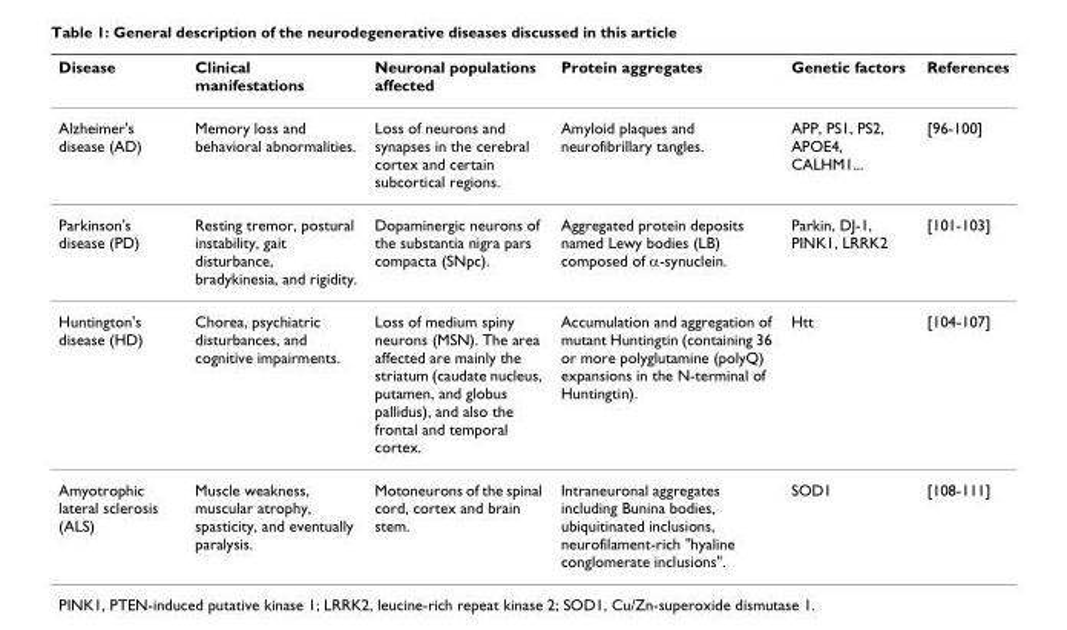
<table><thead><tr><td>Disease</td><td>Clinical manifestations</td><td>Neuronal populations affected</td><td>Protein aggregates</td><td>Genetic factors</td><td>References</td></tr></thead><tbody><tr><td>Alzheimer&#x27;s disease (AD)</td><td>Memory loss and behavioral abnormalities.</td><td>Loss of neurons and synapses in the cerebral cortex and certain subcortical regions.</td><td>Amyloid plaques and neurofibrillary tangles.</td><td>APP, PS1, PS2, APOE4, CALHM1...</td><td>[96-100]</td></tr><tr><td>Parkinson&#x27;s disease (PD)</td><td>Resting tremor, postural instability, gait disturbance, bradykinesia, and rigidity.</td><td>Dopaminergic neurons of the substantia nigra pars compacta (SNpc).</td><td>Aggregated protein deposits named Lewy bodies (LB) composed of α-synuclein.</td><td>Parkin, DJ-1, PINK1, LRRK2</td><td>[101-103]</td></tr><tr><td>Huntington&#x27;s disease (HD)</td><td>Chorea, psychiatric disturbances, and cognitive impairments.</td><td>Loss of medium spiny neurons (MSN). The area affected are mainly the striatum (caudate nucleus, putamen, and globus pallidus), and also the frontal and temporal cortex.</td><td>Accumulation and aggregation of mutant Huntingtin (containing 36 or more polyglutamine (polyQ) expansions in the N-terminal of Huntingtin).</td><td>Htt</td><td>[104-107]</td></tr><tr><td>Amyotrophic lateral sclerosis (ALS)</td><td>Muscle weakness, muscular atrophy, spasticity, and eventually paralysis.</td><td>Motoneurons of the spinal cord, cortex and brain stem.</td><td>Intraneuronal aggregates including Bunina bodies, ubiquitinated inclusions, neurofilament-rich &quot;hyaline conglomerate inclusions&quot;.</td><td>SOD1</td><td>[108-111]</td></tr></tbody></table>